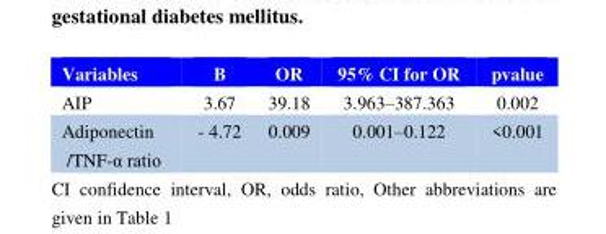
<table><thead><tr><td>Variables</td><td>B</td><td>OR</td><td>95% CI for OR</td><td>pvalue</td></tr></thead><tbody><tr><td>AIP</td><td>3.67</td><td>39.18</td><td>3.963–387.363</td><td>0.002</td></tr><tr><td>Adiponectin /TNF-α ratio</td><td>- 4.72</td><td>0.009</td><td>0.001–0.122</td><td>&lt;0.001</td></tr></tbody></table>